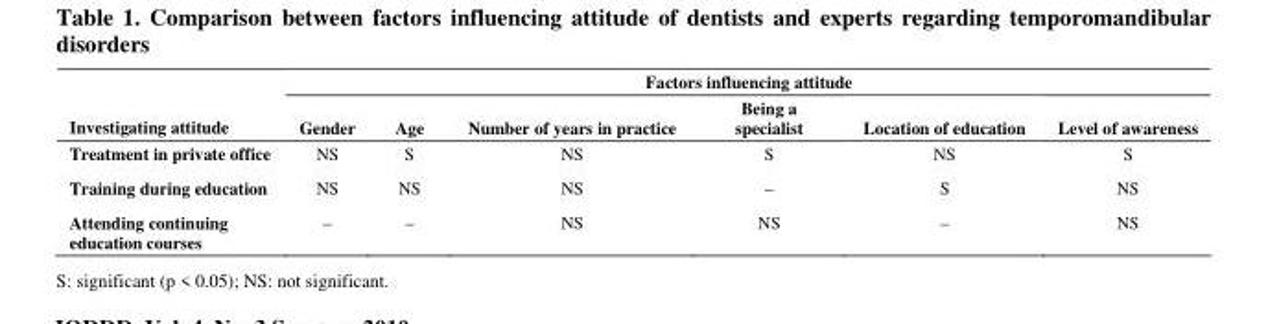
<table><tbody><tr><td colspan="7">Factors influencing attitude</td></tr><tr><td>Investigating attitude</td><td>Gender</td><td>Age</td><td>Number of years in practice</td><td>Being a specialist</td><td>Location of education</td><td>Level of awareness</td></tr><tr><td>Treatment in private office</td><td>NS</td><td>S</td><td>NS</td><td>S</td><td>NS</td><td>S</td></tr><tr><td>Training during education</td><td>NS</td><td>NS</td><td>NS</td><td>–</td><td>S</td><td>NS</td></tr><tr><td>Attending continuing education courses</td><td>–</td><td>–</td><td>NS</td><td>NS</td><td>–</td><td>NS</td></tr></tbody></table>